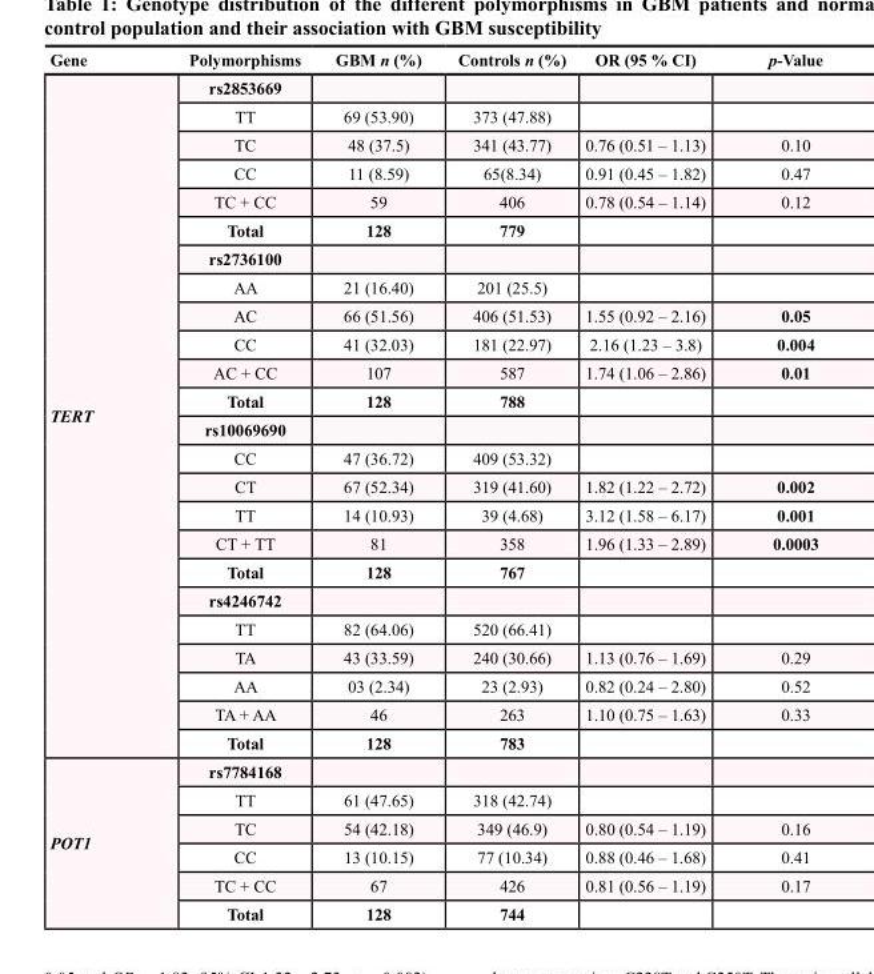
<table><thead><tr><td>Gene</td><td>Polymorphisms</td><td>GBM n (%)</td><td>Controls n (%)</td><td>OR (95 % CI)</td><td>p-Value</td></tr></thead><tbody><tr><td rowspan="24">TERT</td><td>rs2853669</td><td></td><td></td><td></td><td></td></tr><tr><td>TT</td><td>69 (53.90)</td><td>373 (47.88)</td><td></td><td></td></tr><tr><td>TC</td><td>48 (37.5)</td><td>341 (43.77)</td><td>0.76 (0.51 – 1.13)</td><td>0.10</td></tr><tr><td>CC</td><td>11 (8.59)</td><td>65(8.34)</td><td>0.91 (0.45 – 1.82)</td><td>0.47</td></tr><tr><td>TC + CC</td><td>59</td><td>406</td><td>0.78 (0.54 – 1.14)</td><td>0.12</td></tr><tr><td>Total</td><td>128</td><td>779</td><td></td><td></td></tr><tr><td>rs2736100</td><td></td><td></td><td></td><td></td></tr><tr><td>AA</td><td>21 (16.40)</td><td>201 (25.5)</td><td></td><td></td></tr><tr><td>AC</td><td>66 (51.56)</td><td>406 (51.53)</td><td>1.55 (0.92 – 2.16)</td><td>0.05</td></tr><tr><td>CC</td><td>41 (32.03)</td><td>181 (22.97)</td><td>2.16 (1.23 – 3.8)</td><td>0.004</td></tr><tr><td>AC + CC</td><td>107</td><td>587</td><td>1.74 (1.06 – 2.86)</td><td>0.01</td></tr><tr><td>Total</td><td>128</td><td>788</td><td></td><td></td></tr><tr><td>rs10069690</td><td></td><td></td><td></td><td></td></tr><tr><td>CC</td><td>47 (36.72)</td><td>409 (53.32)</td><td></td><td></td></tr><tr><td>CT</td><td>67 (52.34)</td><td>319 (41.60)</td><td>1.82 (1.22 – 2.72)</td><td>0.002</td></tr><tr><td>TT</td><td>14 (10.93)</td><td>39 (4.68)</td><td>3.12 (1.58 – 6.17)</td><td>0.001</td></tr><tr><td>CT + TT</td><td>81</td><td>358</td><td>1.96 (1.33 – 2.89)</td><td>0.0003</td></tr><tr><td>Total</td><td>128</td><td>767</td><td></td><td></td></tr><tr><td>rs4246742</td><td></td><td></td><td></td><td></td></tr><tr><td>TT</td><td>82 (64.06)</td><td>520 (66.41)</td><td></td><td></td></tr><tr><td>TA</td><td>43 (33.59)</td><td>240 (30.66)</td><td>1.13 (0.76 – 1.69)</td><td>0.29</td></tr><tr><td>AA</td><td>03 (2.34)</td><td>23 (2.93)</td><td>0.82 (0.24 – 2.80)</td><td>0.52</td></tr><tr><td>TA + AA</td><td>46</td><td>263</td><td>1.10 (0.75 – 1.63)</td><td>0.33</td></tr><tr><td>Total</td><td>128</td><td>783</td><td></td><td></td></tr><tr><td rowspan="6">POT1</td><td>rs7784168</td><td></td><td></td><td></td><td></td></tr><tr><td>TT</td><td>61 (47.65)</td><td>318 (42.74)</td><td></td><td></td></tr><tr><td>TC</td><td>54 (42.18)</td><td>349 (46.9)</td><td>0.80 (0.54 – 1.19)</td><td>0.16</td></tr><tr><td>CC</td><td>13 (10.15)</td><td>77 (10.34)</td><td>0.88 (0.46 – 1.68)</td><td>0.41</td></tr><tr><td>TC + CC</td><td>67</td><td>426</td><td>0.81 (0.56 – 1.19)</td><td>0.17</td></tr><tr><td>Total</td><td>128</td><td>744</td><td></td><td></td></tr></tbody></table>